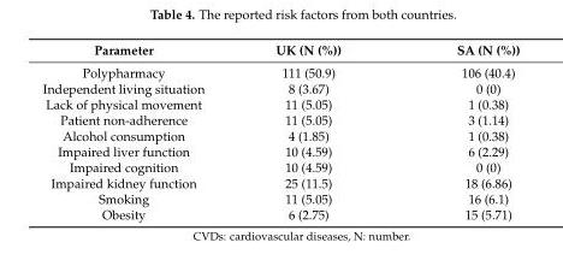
<table><thead><tr><td>Parameter</td><td>UK (N (%))</td><td>SA (N (%))</td></tr></thead><tbody><tr><td>Polypharmacy</td><td>111 (50.9)</td><td>106 (40.4)</td></tr><tr><td>Independent living situation</td><td>8 (3.67)</td><td>0 (0)</td></tr><tr><td>Lack of physical movement</td><td>11 (5.05)</td><td>1 (0.38)</td></tr><tr><td>Patient non-adherence</td><td>11 (5.05)</td><td>3 (1.14)</td></tr><tr><td>Alcohol consumption</td><td>4 (1.85)</td><td>1 (0.38)</td></tr><tr><td>Impaired liver function</td><td>10 (4.59)</td><td>6 (2.29)</td></tr><tr><td>Impaired cognition</td><td>10 (4.59)</td><td>0 (0)</td></tr><tr><td>Impaired kidney function</td><td>25 (11.5)</td><td>18 (6.86)</td></tr><tr><td>Smoking</td><td>11 (5.05)</td><td>16 (6.1)</td></tr><tr><td>Obesity</td><td>6 (2.75)</td><td>15 (5.71)</td></tr></tbody></table>